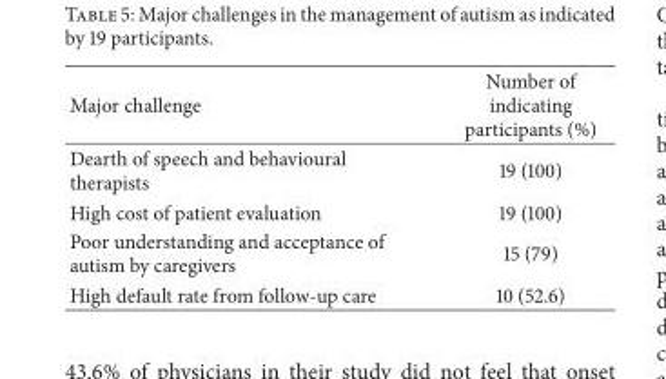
<table><thead><tr><td>Major challenge</td><td>Number of indicating participants (%)</td></tr></thead><tbody><tr><td>Dearth of speech and behavioural therapists</td><td>19 (100)</td></tr><tr><td>High cost of patient evaluation</td><td>19 (100)</td></tr><tr><td>Poor understanding and acceptance of autism by caregivers</td><td>15 (79)</td></tr><tr><td>High default rate from follow-up care</td><td>10 (52.6)</td></tr></tbody></table>